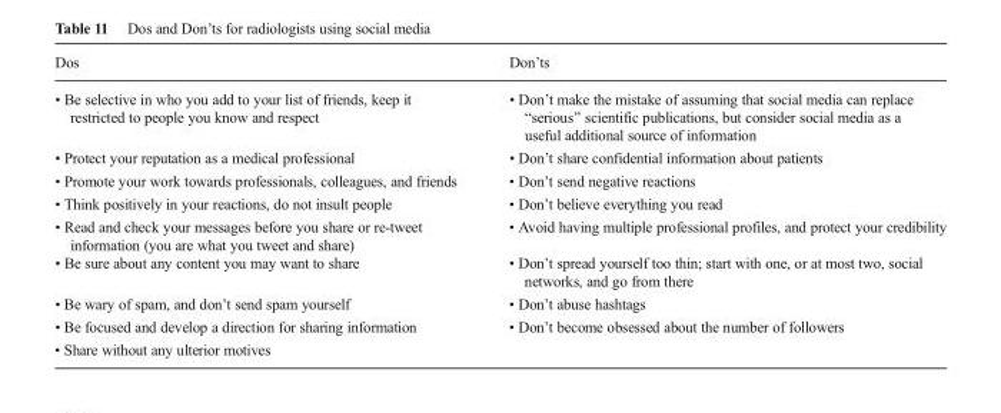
<table><thead><tr><td>Dos</td><td>Don’ts</td></tr></thead><tbody><tr><td>• Be selective in who you add to your list of friends, keep it restricted to people you know and respect</td><td>• Don’t make the mistake of assuming that social media can replace “serious” scientific publications, but consider social media as a useful additional source of information</td></tr><tr><td>• Protect your reputation as a medical professional</td><td>• Don’t share confidential information about patients</td></tr><tr><td>• Promote your work towards professionals, colleagues, and friends</td><td>• Don’t send negative reactions</td></tr><tr><td>• Think positively in your reactions, do not insult people</td><td>• Don’t believe everything you read</td></tr><tr><td>• Read and check your messages before you share or re-tweet information (you are what you tweet and share)</td><td>• Avoid having multiple professional profiles, and protect your credibility</td></tr><tr><td>• Be sure about any content you may want to share</td><td>• Don’t spread yourself too thin; start with one, or at most two, social networks, and go from there</td></tr><tr><td>• Be wary of spam, and don’t send spam yourself</td><td>• Don’t abuse hashtags</td></tr><tr><td>• Be focused and develop a direction for sharing information</td><td>• Don’t become obsessed about the number of followers</td></tr><tr><td>• Share without any ulterior motives</td><td></td></tr></tbody></table>